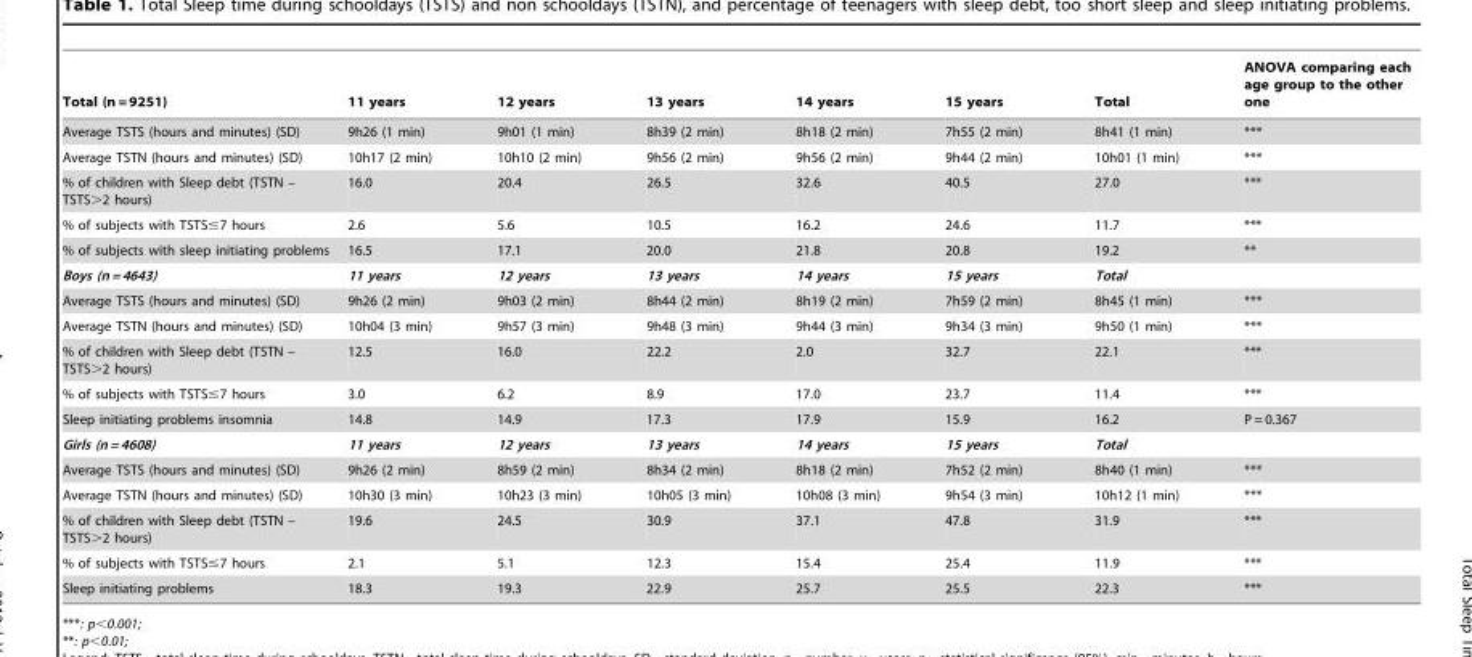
<table><thead><tr><td>Total (n = 9251)</td><td>11 years</td><td>12 years</td><td>13 years</td><td>14 years</td><td>15 years</td><td>Total</td><td>ANOVA comparing each age group to the other one</td></tr></thead><tbody><tr><td>Average TSTS (hours and minutes) (SD)</td><td>9h26 (1 min)</td><td>9h01 (1 min)</td><td>8h39 (2 min)</td><td>8h18 (2 min)</td><td>7h55 (2 min)</td><td>8h41 (1 min)</td><td>***</td></tr><tr><td>Average TSTN (hours and minutes) (SD)</td><td>10h17 (2 min)</td><td>10h10 (2 min)</td><td>9h56 (2 min)</td><td>9h56 (2 min)</td><td>9h44 (2 min)</td><td>10h01 (1 min)</td><td>***</td></tr><tr><td>% of children with Sleep debt (TSTN – TSTS&gt;2 hours)</td><td>16.0</td><td>20.4</td><td>26.5</td><td>32.6</td><td>40.5</td><td>27.0</td><td>***</td></tr><tr><td>% of subjects with TSTS≤7 hours</td><td>2.6</td><td>5.6</td><td>10.5</td><td>16.2</td><td>24.6</td><td>11.7</td><td>***</td></tr><tr><td>% of subjects with sleep initiating problems</td><td>16.5</td><td>17.1</td><td>20.0</td><td>21.8</td><td>20.8</td><td>19.2</td><td>**</td></tr><tr><td>Boys (n = 4643)</td><td>11 years</td><td>12 years</td><td>13 years</td><td>14 years</td><td>15 years</td><td>Total</td><td></td></tr><tr><td>Average TSTS (hours and minutes) (SD)</td><td>9h26 (2 min)</td><td>9h03 (2 min)</td><td>8h44 (2 min)</td><td>8h19 (2 min)</td><td>7h59 (2 min)</td><td>8h45 (1 min)</td><td>***</td></tr><tr><td>Average TSTN (hours and minutes) (SD)</td><td>10h04 (3 min)</td><td>9h57 (3 min)</td><td>9h48 (3 min)</td><td>9h44 (3 min)</td><td>9h34 (3 min)</td><td>9h50 (1 min)</td><td>***</td></tr><tr><td>% of children with Sleep debt (TSTN – TSTS&gt;2 hours)</td><td>12.5</td><td>16.0</td><td>22.2</td><td>2.0</td><td>32.7</td><td>22.1</td><td>***</td></tr><tr><td>% of subjects with TSTS≤7 hours</td><td>3.0</td><td>6.2</td><td>8.9</td><td>17.0</td><td>23.7</td><td>11.4</td><td>***</td></tr><tr><td>Sleep initiating problems insomnia</td><td>14.8</td><td>14.9</td><td>17.3</td><td>17.9</td><td>15.9</td><td>16.2</td><td>P = 0.367</td></tr><tr><td>Girls (n = 4608)</td><td>11 years</td><td>12 years</td><td>13 years</td><td>14 years</td><td>15 years</td><td>Total</td><td></td></tr><tr><td>Average TSTS (hours and minutes) (SD)</td><td>9h26 (2 min)</td><td>8h59 (2 min)</td><td>8h34 (2 min)</td><td>8h18 (2 min)</td><td>7h52 (2 min)</td><td>8h40 (1 min)</td><td>***</td></tr><tr><td>Average TSTN (hours and minutes) (SD)</td><td>10h30 (3 min)</td><td>10h23 (3 min)</td><td>10h05 (3 min)</td><td>10h08 (3 min)</td><td>9h54 (3 min)</td><td>10h12 (1 min)</td><td>***</td></tr><tr><td>% of children with Sleep debt (TSTN – TSTS&gt;2 hours)</td><td>19.6</td><td>24.5</td><td>30.9</td><td>37.1</td><td>47.8</td><td>31.9</td><td>***</td></tr><tr><td>% of subjects with TSTS≤7 hours</td><td>2.1</td><td>5.1</td><td>12.3</td><td>15.4</td><td>25.4</td><td>11.9</td><td>***</td></tr><tr><td>Sleep initiating problems</td><td>18.3</td><td>19.3</td><td>22.9</td><td>25.7</td><td>25.5</td><td>22.3</td><td>***</td></tr></tbody></table>